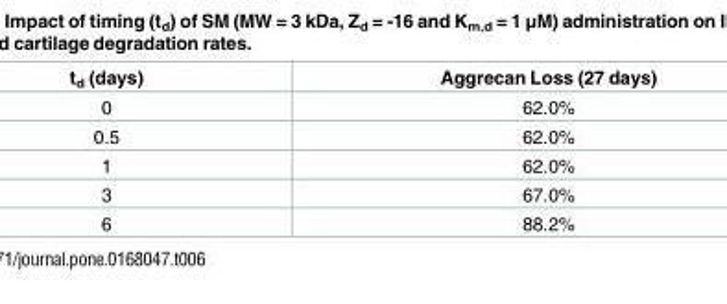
<table><thead><tr><td>t<sub>d</sub> (days)</td><td>Aggrecan Loss (27 days)</td></tr></thead><tbody><tr><td>0</td><td>62.0%</td></tr><tr><td>0.5</td><td>62.0%</td></tr><tr><td>1</td><td>62.0%</td></tr><tr><td>3</td><td>67.0%</td></tr><tr><td>6</td><td>88.2%</td></tr></tbody></table>